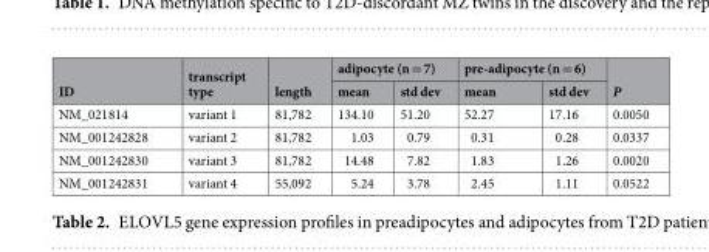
<table><thead><tr><td rowspan="2">ID</td><td rowspan="2">transcript type</td><td rowspan="2">length</td><td colspan="2">adipocyte (n = 7)</td><td colspan="2">pre-adipocyte (n = 6)</td><td rowspan="2">P</td></tr><tr><td>mean</td><td>std dev</td><td>mean</td><td>std dev</td></tr></thead><tbody><tr><td>NM_021814</td><td>variant 1</td><td>81,782</td><td>134.10</td><td>51.20</td><td>52.27</td><td>17.16</td><td>0.0050</td></tr><tr><td>NM_001242828</td><td>variant 2</td><td>81,782</td><td>1.03</td><td>0.79</td><td>0.31</td><td>0.28</td><td>0.0337</td></tr><tr><td>NM_001242830</td><td>variant 3</td><td>81,782</td><td>14.48</td><td>7.82</td><td>1.83</td><td>1.26</td><td>0.0020</td></tr><tr><td>NM_001242831</td><td>variant 4</td><td>55,092</td><td>5.24</td><td>3.78</td><td>2.45</td><td>1.11</td><td>0.0522</td></tr></tbody></table>